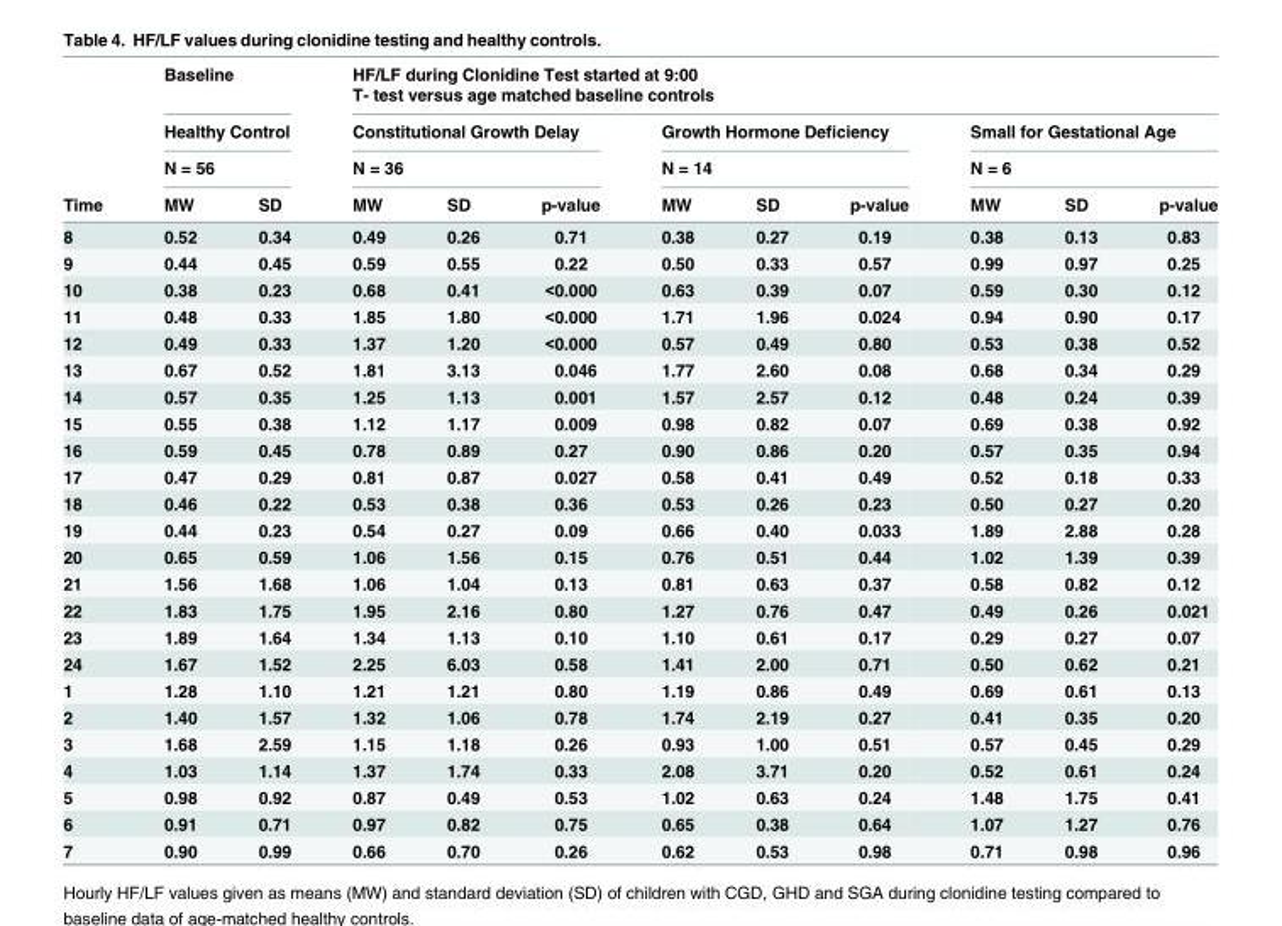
<table><thead><tr><td rowspan="4">Time</td><td rowspan="3" colspan="2">Baseline Healthy Control N = 56</td><td colspan="9">HF/LF during Clonidine Test started at 9:00 T- test versus age matched baseline controls</td></tr><tr><td rowspan="2" colspan="3">Constitutional Growth Delay N = 36</td><td rowspan="2" colspan="3">Growth Hormone Deficiency N = 14</td><td rowspan="2" colspan="3">Small for Gestational Age N = 6</td></tr><tr></tr><tr><td>MW</td><td>SD</td><td>MW</td><td>SD</td><td>p-value</td><td>MW</td><td>SD</td><td>p-value</td><td>MW</td><td>SD</td><td>p-value</td></tr></thead><tbody><tr><td>8</td><td>0.52</td><td>0.34</td><td>0.49</td><td>0.26</td><td>0.71</td><td>0.38</td><td>0.27</td><td>0.19</td><td>0.38</td><td>0.13</td><td>0.83</td></tr><tr><td>9</td><td>0.44</td><td>0.45</td><td>0.59</td><td>0.55</td><td>0.22</td><td>0.50</td><td>0.33</td><td>0.57</td><td>0.99</td><td>0.97</td><td>0.25</td></tr><tr><td>10</td><td>0.38</td><td>0.23</td><td>0.68</td><td>0.41</td><td>&lt;0.000</td><td>0.63</td><td>0.39</td><td>0.07</td><td>0.59</td><td>0.30</td><td>0.12</td></tr><tr><td>11</td><td>0.48</td><td>0.33</td><td>1.85</td><td>1.80</td><td>&lt;0.000</td><td>1.71</td><td>1.96</td><td>0.024</td><td>0.94</td><td>0.90</td><td>0.17</td></tr><tr><td>12</td><td>0.49</td><td>0.33</td><td>1.37</td><td>1.20</td><td>&lt;0.000</td><td>0.57</td><td>0.49</td><td>0.80</td><td>0.53</td><td>0.38</td><td>0.52</td></tr><tr><td>13</td><td>0.67</td><td>0.52</td><td>1.81</td><td>3.13</td><td>0.046</td><td>1.77</td><td>2.60</td><td>0.08</td><td>0.68</td><td>0.34</td><td>0.29</td></tr><tr><td>14</td><td>0.57</td><td>0.35</td><td>1.25</td><td>1.13</td><td>0.001</td><td>1.57</td><td>2.57</td><td>0.12</td><td>0.48</td><td>0.24</td><td>0.39</td></tr><tr><td>15</td><td>0.55</td><td>0.38</td><td>1.12</td><td>1.17</td><td>0.009</td><td>0.98</td><td>0.82</td><td>0.07</td><td>0.69</td><td>0.38</td><td>0.92</td></tr><tr><td>16</td><td>0.59</td><td>0.45</td><td>0.78</td><td>0.89</td><td>0.27</td><td>0.90</td><td>0.86</td><td>0.20</td><td>0.57</td><td>0.35</td><td>0.94</td></tr><tr><td>17</td><td>0.47</td><td>0.29</td><td>0.81</td><td>0.87</td><td>0.027</td><td>0.58</td><td>0.41</td><td>0.49</td><td>0.52</td><td>0.18</td><td>0.33</td></tr><tr><td>18</td><td>0.46</td><td>0.22</td><td>0.53</td><td>0.38</td><td>0.36</td><td>0.53</td><td>0.26</td><td>0.23</td><td>0.50</td><td>0.27</td><td>0.20</td></tr><tr><td>19</td><td>0.44</td><td>0.23</td><td>0.54</td><td>0.27</td><td>0.09</td><td>0.66</td><td>0.40</td><td>0.033</td><td>1.89</td><td>2.88</td><td>0.28</td></tr><tr><td>20</td><td>0.65</td><td>0.59</td><td>1.06</td><td>1.56</td><td>0.15</td><td>0.76</td><td>0.51</td><td>0.44</td><td>1.02</td><td>1.39</td><td>0.39</td></tr><tr><td>21</td><td>1.56</td><td>1.68</td><td>1.06</td><td>1.04</td><td>0.13</td><td>0.81</td><td>0.63</td><td>0.37</td><td>0.58</td><td>0.82</td><td>0.12</td></tr><tr><td>22</td><td>1.83</td><td>1.75</td><td>1.95</td><td>2.16</td><td>0.80</td><td>1.27</td><td>0.76</td><td>0.47</td><td>0.49</td><td>0.26</td><td>0.021</td></tr><tr><td>23</td><td>1.89</td><td>1.64</td><td>1.34</td><td>1.13</td><td>0.10</td><td>1.10</td><td>0.61</td><td>0.17</td><td>0.29</td><td>0.27</td><td>0.07</td></tr><tr><td>24</td><td>1.67</td><td>1.52</td><td>2.25</td><td>6.03</td><td>0.58</td><td>1.41</td><td>2.00</td><td>0.71</td><td>0.50</td><td>0.62</td><td>0.21</td></tr><tr><td>1</td><td>1.28</td><td>1.10</td><td>1.21</td><td>1.21</td><td>0.80</td><td>1.19</td><td>0.86</td><td>0.49</td><td>0.69</td><td>0.61</td><td>0.13</td></tr><tr><td>2</td><td>1.40</td><td>1.57</td><td>1.32</td><td>1.06</td><td>0.78</td><td>1.74</td><td>2.19</td><td>0.27</td><td>0.41</td><td>0.35</td><td>0.20</td></tr><tr><td>3</td><td>1.68</td><td>2.59</td><td>1.15</td><td>1.18</td><td>0.26</td><td>0.93</td><td>1.00</td><td>0.51</td><td>0.57</td><td>0.45</td><td>0.29</td></tr><tr><td>4</td><td>1.03</td><td>1.14</td><td>1.37</td><td>1.74</td><td>0.33</td><td>2.08</td><td>3.71</td><td>0.20</td><td>0.52</td><td>0.61</td><td>0.24</td></tr><tr><td>5</td><td>0.98</td><td>0.92</td><td>0.87</td><td>0.49</td><td>0.53</td><td>1.02</td><td>0.63</td><td>0.24</td><td>1.48</td><td>1.75</td><td>0.41</td></tr><tr><td>6</td><td>0.91</td><td>0.71</td><td>0.97</td><td>0.82</td><td>0.75</td><td>0.65</td><td>0.38</td><td>0.64</td><td>1.07</td><td>1.27</td><td>0.76</td></tr><tr><td>7</td><td>0.90</td><td>0.99</td><td>0.66</td><td>0.70</td><td>0.26</td><td>0.62</td><td>0.53</td><td>0.98</td><td>0.71</td><td>0.98</td><td>0.96</td></tr></tbody></table>